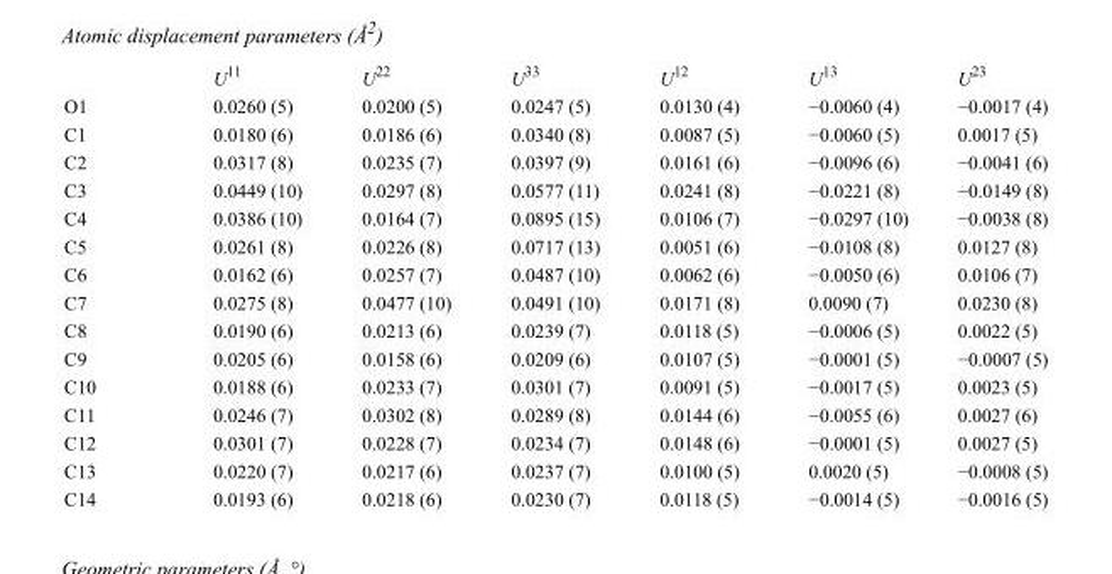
<table><thead><tr><td></td><td>U<sup>11</sup></td><td>U<sup>22</sup></td><td>U<sup>33</sup></td><td>U<sup>12</sup></td><td>U<sup>13</sup></td><td>U<sup>23</sup></td></tr></thead><tbody><tr><td>O1</td><td>0.0260 (5)</td><td>0.0200 (5)</td><td>0.0247 (5)</td><td>0.0130 (4)</td><td>−0.0060 (4)</td><td>−0.0017 (4)</td></tr><tr><td>C1</td><td>0.0180 (6)</td><td>0.0186 (6)</td><td>0.0340 (8)</td><td>0.0087 (5)</td><td>−0.0060 (5)</td><td>0.0017 (5)</td></tr><tr><td>C2</td><td>0.0317 (8)</td><td>0.0235 (7)</td><td>0.0397 (9)</td><td>0.0161 (6)</td><td>−0.0096 (6)</td><td>−0.0041 (6)</td></tr><tr><td>C3</td><td>0.0449 (10)</td><td>0.0297 (8)</td><td>0.0577 (11)</td><td>0.0241 (8)</td><td>−0.0221 (8)</td><td>−0.0149 (8)</td></tr><tr><td>C4</td><td>0.0386 (10)</td><td>0.0164 (7)</td><td>0.0895 (15)</td><td>0.0106 (7)</td><td>−0.0297 (10)</td><td>−0.0038 (8)</td></tr><tr><td>C5</td><td>0.0261 (8)</td><td>0.0226 (8)</td><td>0.0717 (13)</td><td>0.0051 (6)</td><td>−0.0108 (8)</td><td>0.0127 (8)</td></tr><tr><td>C6</td><td>0.0162 (6)</td><td>0.0257 (7)</td><td>0.0487 (10)</td><td>0.0062 (6)</td><td>−0.0050 (6)</td><td>0.0106 (7)</td></tr><tr><td>C7</td><td>0.0275 (8)</td><td>0.0477 (10)</td><td>0.0491 (10)</td><td>0.0171 (8)</td><td>0.0090 (7)</td><td>0.0230 (8)</td></tr><tr><td>C8</td><td>0.0190 (6)</td><td>0.0213 (6)</td><td>0.0239 (7)</td><td>0.0118 (5)</td><td>−0.0006 (5)</td><td>0.0022 (5)</td></tr><tr><td>C9</td><td>0.0205 (6)</td><td>0.0158 (6)</td><td>0.0209 (6)</td><td>0.0107 (5)</td><td>−0.0001 (5)</td><td>−0.0007 (5)</td></tr><tr><td>C10</td><td>0.0188 (6)</td><td>0.0233 (7)</td><td>0.0301 (7)</td><td>0.0091 (5)</td><td>−0.0017 (5)</td><td>0.0023 (5)</td></tr><tr><td>C11</td><td>0.0246 (7)</td><td>0.0302 (8)</td><td>0.0289 (8)</td><td>0.0144 (6)</td><td>−0.0055 (6)</td><td>0.0027 (6)</td></tr><tr><td>C12</td><td>0.0301 (7)</td><td>0.0228 (7)</td><td>0.0234 (7)</td><td>0.0148 (6)</td><td>−0.0001 (5)</td><td>0.0027 (5)</td></tr><tr><td>C13</td><td>0.0220 (7)</td><td>0.0217 (6)</td><td>0.0237 (7)</td><td>0.0100 (5)</td><td>0.0020 (5)</td><td>−0.0008 (5)</td></tr><tr><td>C14</td><td>0.0193 (6)</td><td>0.0218 (6)</td><td>0.0230 (7)</td><td>0.0118 (5)</td><td>−0.0014 (5)</td><td>−0.0016 (5)</td></tr></tbody></table>